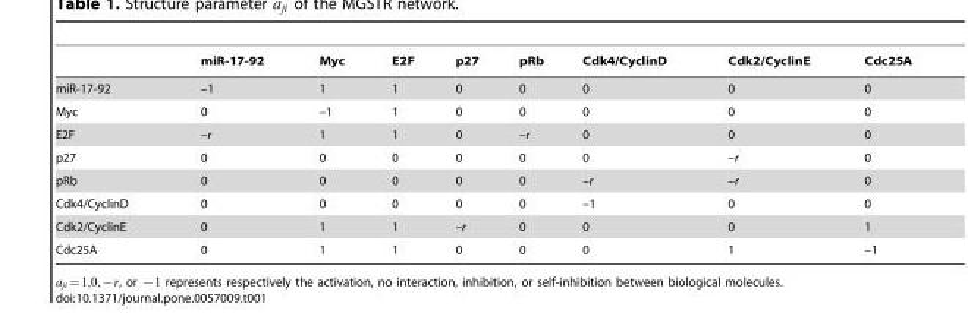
<table><thead><tr><td></td><td>miR-17-92</td><td>Myc</td><td>E2F</td><td>p27</td><td>pRb</td><td>Cdk4/CyclinD</td><td>Cdk2/CyclinE</td><td>Cdc25A</td></tr></thead><tbody><tr><td>miR-17-92</td><td>–1</td><td>1</td><td>1</td><td>0</td><td>0</td><td>0</td><td>0</td><td>0</td></tr><tr><td>Myc</td><td>0</td><td>–1</td><td>1</td><td>0</td><td>0</td><td>0</td><td>0</td><td>0</td></tr><tr><td>E2F</td><td>–r</td><td>1</td><td>1</td><td>0</td><td>–r</td><td>0</td><td>0</td><td>0</td></tr><tr><td>p27</td><td>0</td><td>0</td><td>0</td><td>0</td><td>0</td><td>0</td><td>–r</td><td>0</td></tr><tr><td>pRb</td><td>0</td><td>0</td><td>0</td><td>0</td><td>0</td><td>–r</td><td>–r</td><td>0</td></tr><tr><td>Cdk4/CyclinD</td><td>0</td><td>0</td><td>0</td><td>0</td><td>0</td><td>–1</td><td>0</td><td>0</td></tr><tr><td>Cdk2/CyclinE</td><td>0</td><td>1</td><td>1</td><td>–r</td><td>0</td><td>0</td><td>0</td><td>1</td></tr><tr><td>Cdc25A</td><td>0</td><td>1</td><td>1</td><td>0</td><td>0</td><td>0</td><td>1</td><td>–1</td></tr></tbody></table>